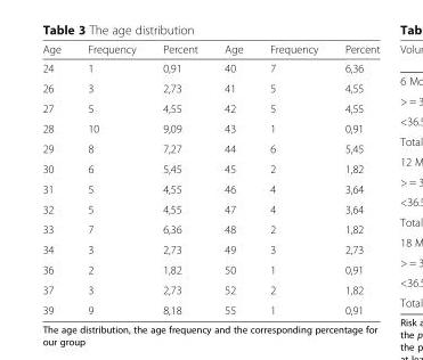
<table><thead><tr><td>Age</td><td>Frequency</td><td>Percent</td><td>Age</td><td>Frequency</td><td>Percent</td></tr></thead><tbody><tr><td>24</td><td>1</td><td>0,91</td><td>40</td><td>7</td><td>6,36</td></tr><tr><td>26</td><td>3</td><td>2,73</td><td>41</td><td>5</td><td>4,55</td></tr><tr><td>27</td><td>5</td><td>4,55</td><td>42</td><td>5</td><td>4,55</td></tr><tr><td>28</td><td>10</td><td>9,09</td><td>43</td><td>1</td><td>0,91</td></tr><tr><td>29</td><td>8</td><td>7,27</td><td>44</td><td>6</td><td>5,45</td></tr><tr><td>30</td><td>6</td><td>5,45</td><td>45</td><td>2</td><td>1,82</td></tr><tr><td>31</td><td>5</td><td>4,55</td><td>46</td><td>4</td><td>3,64</td></tr><tr><td>32</td><td>5</td><td>4,55</td><td>47</td><td>4</td><td>3,64</td></tr><tr><td>33</td><td>7</td><td>6,36</td><td>48</td><td>2</td><td>1,82</td></tr><tr><td>34</td><td>3</td><td>2,73</td><td>49</td><td>3</td><td>2,73</td></tr><tr><td>36</td><td>2</td><td>1,82</td><td>50</td><td>1</td><td>0,91</td></tr><tr><td>37</td><td>3</td><td>2,73</td><td>52</td><td>2</td><td>1,82</td></tr><tr><td>39</td><td>9</td><td>8,18</td><td>55</td><td>1</td><td>0,91</td></tr></tbody></table>